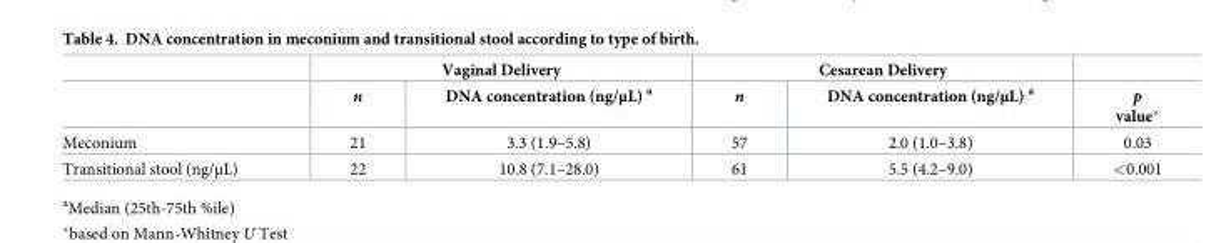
<table><thead><tr><td rowspan="2"></td><td colspan="2">Vaginal Delivery</td><td colspan="2">Cesarean Delivery</td><td rowspan="2">p value*</td></tr><tr><td>n</td><td>DNA concentration (ng/μL) <sup>a</sup></td><td>n</td><td>DNA concentration (ng/μL) <sup>a</sup></td></tr></thead><tbody><tr><td>Meconium</td><td>21</td><td>3.3 (1.9–5.8)</td><td>57</td><td>2.0 (1.0–3.8)</td><td>0.03</td></tr><tr><td>Transitional stool (ng/μL)</td><td>22</td><td>10.8 (7.1–28.0)</td><td>61</td><td>5.5 (4.2–9.0)</td><td>&lt;0.001</td></tr></tbody></table>